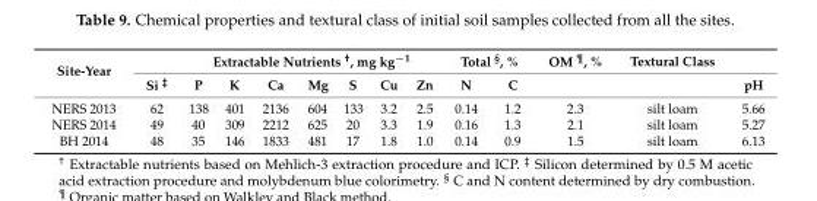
<table><thead><tr><td rowspan="2">Site-Year</td><td rowspan="2">Si <sup>‡</sup></td><td colspan="7">Extractable Nutrients <sup>†</sup>, mg kg<sup>−1</sup></td><td colspan="2">Total <sup>§</sup>, %</td><td rowspan="2">OM <sup>¶</sup>, %</td><td rowspan="2">Textural Class</td><td rowspan="2">pH</td></tr><tr><td>P</td><td>K</td><td>Ca</td><td>Mg</td><td>S</td><td>Cu</td><td>Zn</td><td>N</td><td>C</td></tr></thead><tbody><tr><td>NERS 2013</td><td>62</td><td>138</td><td>401</td><td>2136</td><td>604</td><td>133</td><td>3.2</td><td>2.5</td><td>0.14</td><td>1.2</td><td>2.3</td><td>silt loam</td><td>5.66</td></tr><tr><td>NERS 2014</td><td>49</td><td>40</td><td>309</td><td>2212</td><td>625</td><td>20</td><td>3.3</td><td>1.9</td><td>0.16</td><td>1.3</td><td>2.1</td><td>silt loam</td><td>5.27</td></tr><tr><td>BH 2014</td><td>48</td><td>35</td><td>146</td><td>1833</td><td>481</td><td>17</td><td>1.8</td><td>1.0</td><td>0.14</td><td>0.9</td><td>1.5</td><td>silt loam</td><td>6.13</td></tr></tbody></table>